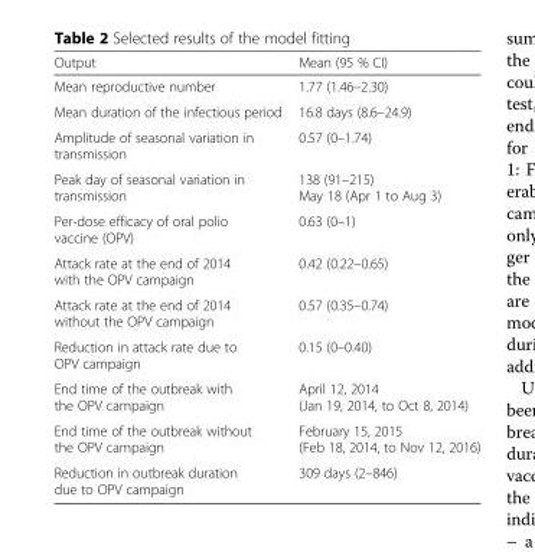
<table><thead><tr><td>Output</td><td>Mean (95 % CI)</td></tr></thead><tbody><tr><td>Mean reproductive number</td><td>1.77 (1.46–2.30)</td></tr><tr><td>Mean duration of the infectious period</td><td>16.8 days (8.6–24.9)</td></tr><tr><td>Amplitude of seasonal variation in transmission</td><td>0.57 (0–1.74)</td></tr><tr><td>Peak day of seasonal variation in transmission</td><td>138 (91–215) May 18 (Apr 1 to Aug 3)</td></tr><tr><td>Per-dose efficacy of oral polio vaccine (OPV)</td><td>0.63 (0–1)</td></tr><tr><td>Attack rate at the end of 2014 with the OPV campaign</td><td>0.42 (0.22–0.65)</td></tr><tr><td>Attack rate at the end of 2014 without the OPV campaign</td><td>0.57 (0.35–0.74)</td></tr><tr><td>Reduction in attack rate due to OPV campaign</td><td>0.15 (0–0.40)</td></tr><tr><td>End time of the outbreak with the OPV campaign</td><td>April 12, 2014 (Jan 19, 2014, to Oct 8, 2014)</td></tr><tr><td>End time of the outbreak without the OPV campaign</td><td>February 15, 2015 (Feb 18, 2014, to Nov 12, 2016)</td></tr><tr><td>Reduction in outbreak duration due to OPV campaign</td><td>309 days (2–846)</td></tr></tbody></table>